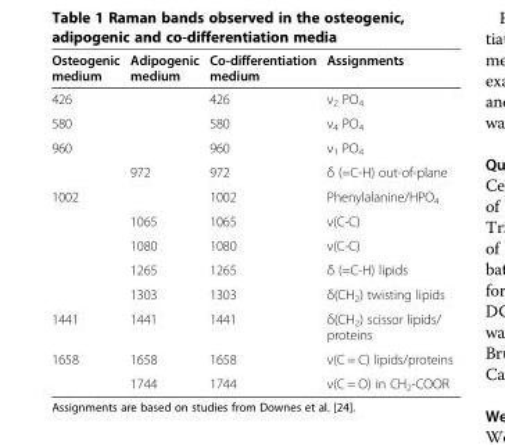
<table><thead><tr><td>Osteogenic medium</td><td>Adipogenic medium</td><td>Co-differentiation medium</td><td>Assignments</td></tr></thead><tbody><tr><td>426</td><td></td><td>426</td><td>ν<sub>2</sub> PO<sub>4</sub></td></tr><tr><td>580</td><td></td><td>580</td><td>ν<sub>4</sub> PO<sub>4</sub></td></tr><tr><td rowspan="2">960</td><td></td><td>960</td><td>ν<sub>1</sub> PO<sub>4</sub></td></tr><tr><td>972</td><td>972</td><td>δ (=C-H) out-of-plane</td></tr><tr><td rowspan="5">1002</td><td></td><td>1002</td><td>Phenylalanine/HPO<sub>4</sub></td></tr><tr><td>1065</td><td>1065</td><td>ν(C-C)</td></tr><tr><td>1080</td><td>1080</td><td>ν(C-C)</td></tr><tr><td>1265</td><td>1265</td><td>δ (=C-H) lipids</td></tr><tr><td>1303</td><td>1303</td><td>δ(CH<sub>2</sub>) twisting lipids</td></tr><tr><td>1441</td><td>1441</td><td>1441</td><td>δ(CH<sub>2</sub>) scissor lipids/ proteins</td></tr><tr><td rowspan="2">1658</td><td>1658</td><td>1658</td><td>ν(C = C) lipids/proteins</td></tr><tr><td>1744</td><td>1744</td><td>ν(C = O) in CH<sub>2</sub>-COOR</td></tr></tbody></table>